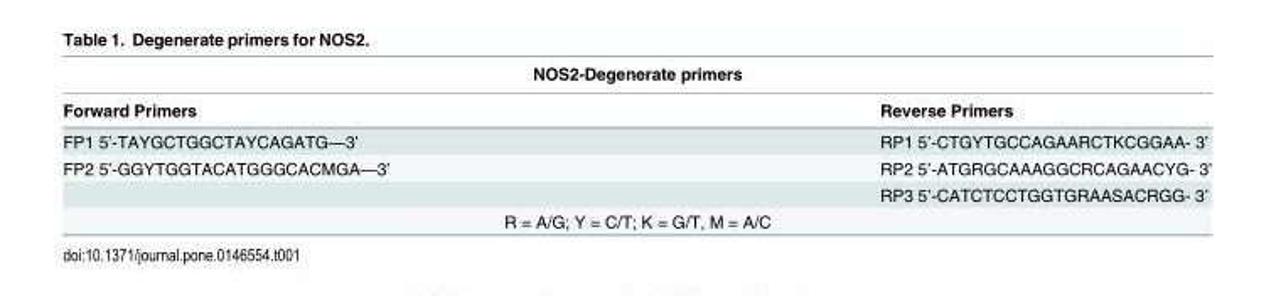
<table><thead><tr><td colspan="2">NOS2-Degenerate primers</td></tr><tr><td>Forward Primers</td><td>Reverse Primers</td></tr></thead><tbody><tr><td>FP1 5’-TAYGCTGGCTAYCAGATG—3’</td><td>RP1 5’-CTGYTGCCAGAARCTKCGGAA- 3’</td></tr><tr><td rowspan="2">FP2 5’-GGYTGGTACATGGGCACMGA—3’</td><td>RP2 5’-ATGRGCAAAGGCRCAGAACYG- 3’</td></tr><tr><td>RP3 5’-CATCTCCTGGTGRAASACRGG- 3’</td></tr><tr><td colspan="2">R = A/G; Y = C/T; K = G/T, M = A/C</td></tr></tbody></table>